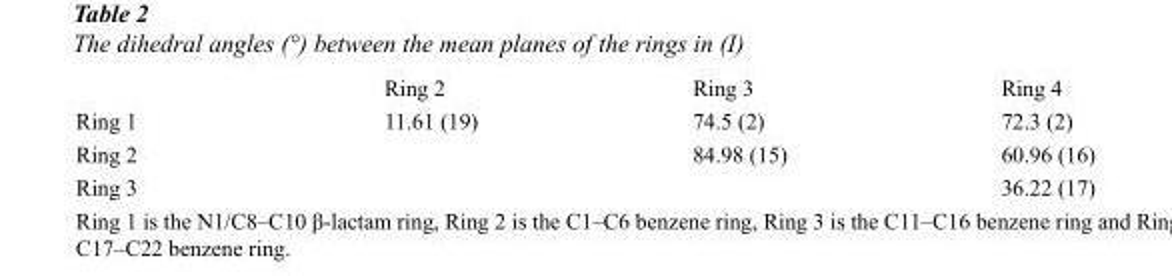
<table><thead><tr><td></td><td>Ring 2</td><td>Ring 3</td><td>Ring 4</td></tr></thead><tbody><tr><td>Ring 1</td><td>11.61 (19)</td><td>74.5 (2)</td><td>72.3 (2)</td></tr><tr><td>Ring 2</td><td></td><td>84.98 (15)</td><td>60.96 (16)</td></tr><tr><td>Ring 3</td><td></td><td></td><td>36.22 (17)</td></tr></tbody></table>